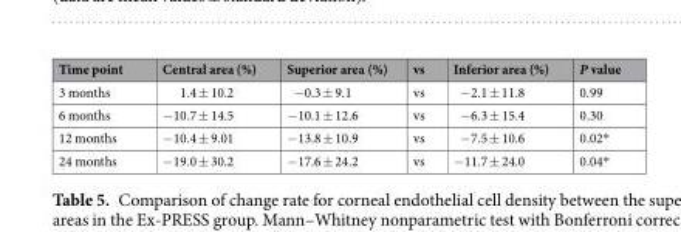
<table><thead><tr><td>Time point</td><td>Central area (%)</td><td>Superior area (%)</td><td>vs</td><td>Inferior area (%)</td><td>P value</td></tr></thead><tbody><tr><td>3 months</td><td>1.4 ± 10.2</td><td>−0.3 ± 9.1</td><td>vs</td><td>−2.1 ± 11.8</td><td>0.99</td></tr><tr><td>6 months</td><td>−10.7 ± 14.5</td><td>−10.1 ± 12.6</td><td>vs</td><td>−6.3 ± 15.4</td><td>0.30</td></tr><tr><td>12 months</td><td>−10.4 ± 9.01</td><td>−13.8 ± 10.9</td><td>vs</td><td>−7.5 ± 10.6</td><td>0.02*</td></tr><tr><td>24 months</td><td>−19.0 ± 30.2</td><td>−17.6 ± 24.2</td><td>vs</td><td>−11.7 ± 24.0</td><td>0.04*</td></tr></tbody></table>